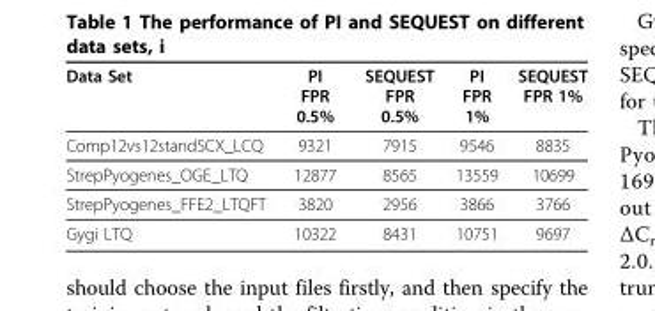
<table><thead><tr><td>Data Set</td><td>PI FPR 0.5%</td><td>SEQUEST FPR 0.5%</td><td>PI FPR 1%</td><td>SEQUEST FPR 1%</td></tr></thead><tbody><tr><td>Comp12vs12standSCX_LCQ</td><td>9321</td><td>7915</td><td>9546</td><td>8835</td></tr><tr><td>StrepPyogenes_OGE_LTQ</td><td>12877</td><td>8565</td><td>13559</td><td>10699</td></tr><tr><td>StrepPyogenes_FFE2_LTQFT</td><td>3820</td><td>2956</td><td>3866</td><td>3766</td></tr><tr><td>Gygi LTQ</td><td>10322</td><td>8431</td><td>10751</td><td>9697</td></tr></tbody></table>